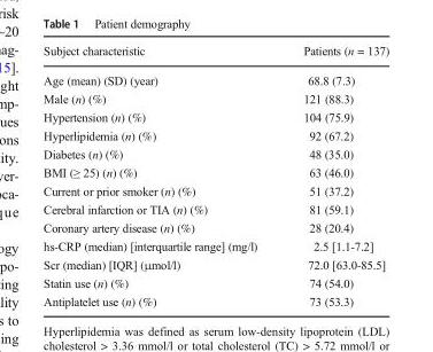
<table><thead><tr><td>Subject characteristic</td><td>Patients (n = 137)</td></tr></thead><tbody><tr><td>Age (mean) (SD) (year)</td><td>68.8 (7.3)</td></tr><tr><td>Male (n) (%)</td><td>121 (88.3)</td></tr><tr><td>Hypertension (n) (%)</td><td>104 (75.9)</td></tr><tr><td>Hyperlipidemia (n) (%)</td><td>92 (67.2)</td></tr><tr><td>Diabetes (n) (%)</td><td>48 (35.0)</td></tr><tr><td>BMI (≥ 25) (n) (%)</td><td>63 (46.0)</td></tr><tr><td>Current or prior smoker (n) (%)</td><td>51 (37.2)</td></tr><tr><td>Cerebral infarction or TIA (n) (%)</td><td>81 (59.1)</td></tr><tr><td>Coronary artery disease (n) (%)</td><td>28 (20.4)</td></tr><tr><td>hs-CRP (median) [interquartile range] (mg/l)</td><td>2.5 [1.1-7.2]</td></tr><tr><td>Scr (median) [IQR] (μmol/l)</td><td>72.0 [63.0-85.5]</td></tr><tr><td>Statin use (n) (%)</td><td>74 (54.0)</td></tr><tr><td>Antiplatelet use (n) (%)</td><td>73 (53.3)</td></tr></tbody></table>